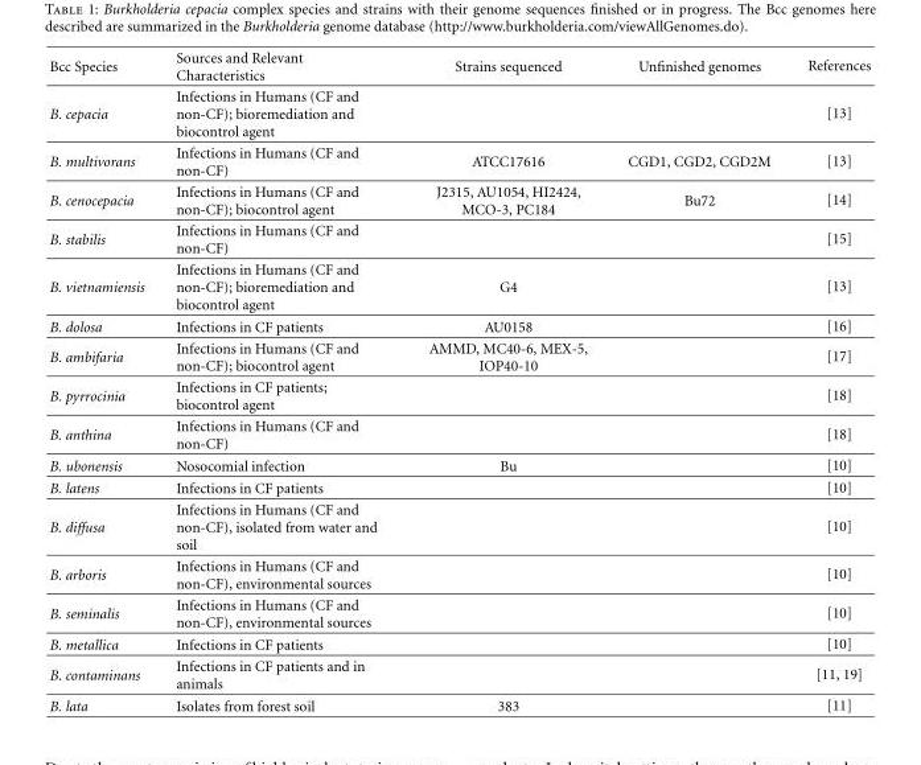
<table><thead><tr><td>Bcc Species</td><td>Sources and Relevant Characteristics</td><td>Strains sequenced</td><td>Unfinished genomes</td><td>References</td></tr></thead><tbody><tr><td>B. cepacia</td><td>Infections in Humans (CF and non-CF); bioremediation and biocontrol agent</td><td></td><td></td><td>[13]</td></tr><tr><td>B. multivorans</td><td>Infections in Humans (CF and non-CF)</td><td>ATCC17616</td><td>CGD1, CGD2, CGD2M</td><td>[13]</td></tr><tr><td>B. cenocepacia</td><td>Infections in Humans (CF and non-CF); biocontrol agent</td><td>J2315, AU1054, HI2424, MCO-3, PC184</td><td>Bu72</td><td>[14]</td></tr><tr><td>B. stabilis</td><td>Infections in Humans (CF and non-CF)</td><td></td><td></td><td>[15]</td></tr><tr><td>B. vietnamiensis</td><td>Infections in Humans (CF and non-CF); bioremediation and biocontrol agent</td><td>G4</td><td></td><td>[13]</td></tr><tr><td>B. dolosa</td><td>Infections in CF patients</td><td>AU0158</td><td></td><td>[16]</td></tr><tr><td>B. ambifaria</td><td>Infections in Humans (CF and non-CF); biocontrol agent</td><td>AMMD, MC40-6, MEX-5, IOP40-10</td><td></td><td>[17]</td></tr><tr><td>B. pyrrocinia</td><td>Infections in CF patients; biocontrol agent</td><td></td><td></td><td>[18]</td></tr><tr><td>B. anthina</td><td>Infections in Humans (CF and non-CF)</td><td></td><td></td><td>[18]</td></tr><tr><td>B. ubonensis</td><td>Nosocomial infection</td><td>Bu</td><td></td><td>[10]</td></tr><tr><td>B. latens</td><td>Infections in CF patients</td><td></td><td></td><td>[10]</td></tr><tr><td>B. diffusa</td><td>Infections in Humans (CF and non-CF), isolated from water and soil</td><td></td><td></td><td>[10]</td></tr><tr><td>B. arboris</td><td>Infections in Humans (CF and non-CF), environmental sources</td><td></td><td></td><td>[10]</td></tr><tr><td>B. seminalis</td><td>Infections in Humans (CF and non-CF), environmental sources</td><td></td><td></td><td>[10]</td></tr><tr><td>B. metallica</td><td>Infections in CF patients</td><td></td><td></td><td>[10]</td></tr><tr><td>B. contaminans</td><td>Infections in CF patients and in animals</td><td></td><td></td><td>[11, 19]</td></tr><tr><td>B. lata</td><td>Isolates from forest soil</td><td>383</td><td></td><td>[11]</td></tr></tbody></table>